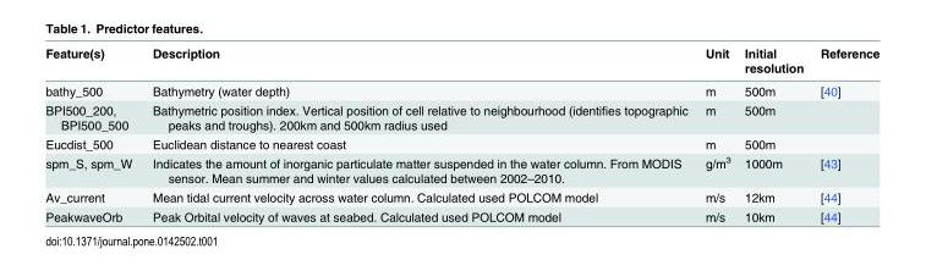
<table><thead><tr><td>Feature(s)</td><td>Description</td><td>Unit</td><td>Initial resolution</td><td>Reference</td></tr></thead><tbody><tr><td>bathy_500</td><td>Bathymetry (water depth)</td><td>m</td><td>500m</td><td>[40]</td></tr><tr><td>BPI500_200, BPI500_500</td><td>Bathymetric position index. Vertical position of cell relative to neighbourhood (identifies topographic peaks and troughs). 200km and 500km radius used</td><td>m</td><td>500m</td><td></td></tr><tr><td>Eucdist_500</td><td>Euclidean distance to nearest coast</td><td>m</td><td>500m</td><td></td></tr><tr><td>spm_S, spm_W</td><td>Indicates the amount of inorganic particulate matter suspended in the water column. From MODIS sensor. Mean summer and winter values calculated between 2002–2010.</td><td>g/m<sup>3</sup></td><td>1000m</td><td>[43]</td></tr><tr><td>Av_current</td><td>Mean tidal current velocity across water column. Calculated used POLCOM model</td><td>m/s</td><td>12km</td><td>[44]</td></tr><tr><td>PeakwaveOrb</td><td>Peak Orbital velocity of waves at seabed. Calculated used POLCOM model</td><td>m/s</td><td>10km</td><td>[44]</td></tr></tbody></table>